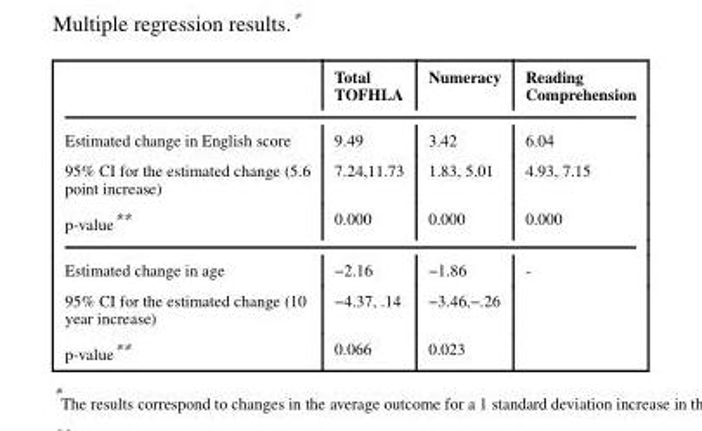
<table><thead><tr><td></td><td>Total TOFHLA</td><td>Numeracy</td><td>Reading Comprehension</td></tr></thead><tbody><tr><td>Estimated change in English score</td><td>9.49</td><td>3.42</td><td>6.04</td></tr><tr><td>95% CI for the estimated change (5.6 point increase)</td><td>7.24,11.73</td><td>1.83, 5.01</td><td>4.93, 7.15</td></tr><tr><td>p-value**</td><td>0.000</td><td>0.000</td><td>0.000</td></tr><tr><td>Estimated change in age</td><td>−2.16</td><td>−1.86</td><td>-</td></tr><tr><td>95% CI for the estimated change (10 year increase)</td><td>−4.37, .14</td><td>−3.46,−.26</td><td></td></tr><tr><td>p-value**</td><td>0.066</td><td>0.023</td><td></td></tr></tbody></table>